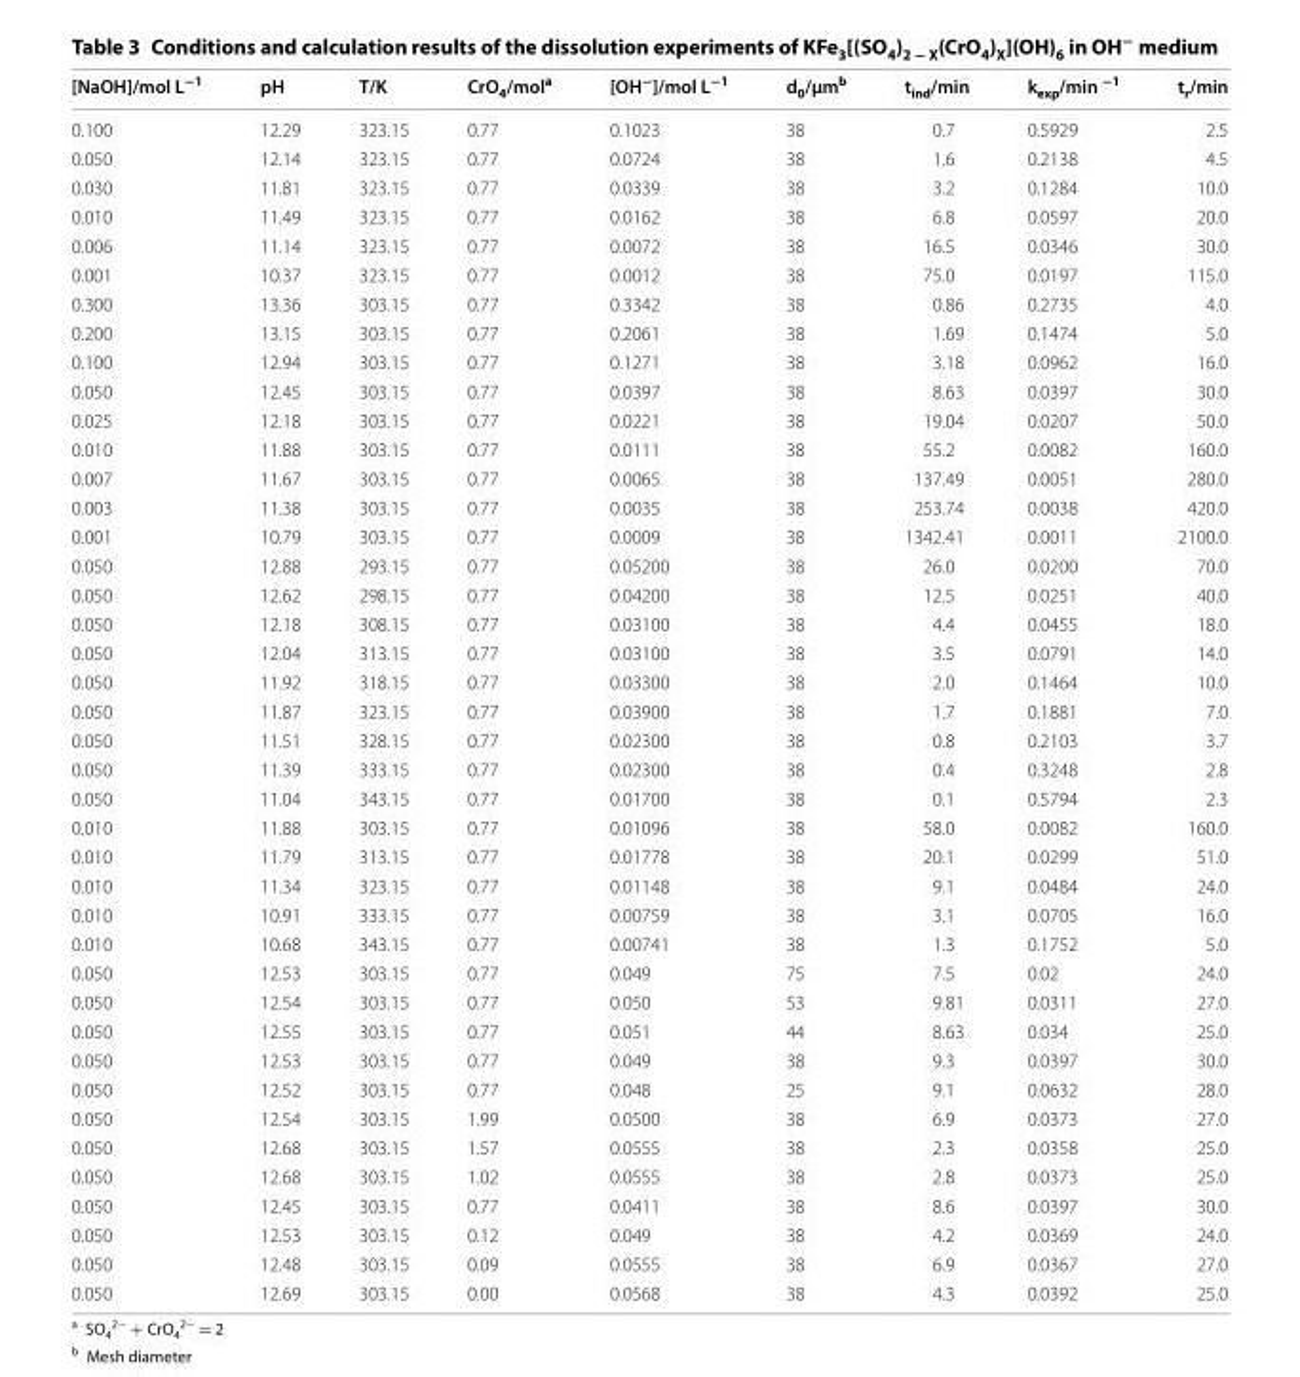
<table><thead><tr><td>[NaOH]/mol L<sup>−1</sup></td><td>pH</td><td>T/K</td><td>CrO<sub>4</sub>/mol<sup>a</sup></td><td>[OH<sup>−</sup>]/mol L<sup>−1</sup></td><td>d<sub>0</sub>/µm<sup>b</sup></td><td>t<sub>ind</sub>/min</td><td>k<sub>exp</sub>/min <sup>−1</sup></td><td>t<sub>r</sub>/min</td></tr></thead><tbody><tr><td>0.100</td><td>12.29</td><td>323.15</td><td>0.77</td><td>0.1023</td><td>38</td><td>0.7</td><td>0.5929</td><td>2.5</td></tr><tr><td>0.050</td><td>12.14</td><td>323.15</td><td>0.77</td><td>0.0724</td><td>38</td><td>1.6</td><td>0.2138</td><td>4.5</td></tr><tr><td>0.030</td><td>11.81</td><td>323.15</td><td>0.77</td><td>0.0339</td><td>38</td><td>3.2</td><td>0.1284</td><td>10.0</td></tr><tr><td>0.010</td><td>11.49</td><td>323.15</td><td>0.77</td><td>0.0162</td><td>38</td><td>6.8</td><td>0.0597</td><td>20.0</td></tr><tr><td>0.006</td><td>11.14</td><td>323.15</td><td>0.77</td><td>0.0072</td><td>38</td><td>16.5</td><td>0.0346</td><td>30.0</td></tr><tr><td>0.001</td><td>10.37</td><td>323.15</td><td>0.77</td><td>0.0012</td><td>38</td><td>75.0</td><td>0.0197</td><td>115.0</td></tr><tr><td>0.300</td><td>13.36</td><td>303.15</td><td>0.77</td><td>0.3342</td><td>38</td><td>0.86</td><td>0.2735</td><td>4.0</td></tr><tr><td>0.200</td><td>13.15</td><td>303.15</td><td>0.77</td><td>0.2061</td><td>38</td><td>1.69</td><td>0.1474</td><td>5.0</td></tr><tr><td>0.100</td><td>12.94</td><td>303.15</td><td>0.77</td><td>0.1271</td><td>38</td><td>3.18</td><td>0.0962</td><td>16.0</td></tr><tr><td>0.050</td><td>12.45</td><td>303.15</td><td>0.77</td><td>0.0397</td><td>38</td><td>8.63</td><td>0.0397</td><td>30.0</td></tr><tr><td>0.025</td><td>12.18</td><td>303.15</td><td>0.77</td><td>0.0221</td><td>38</td><td>19.04</td><td>0.0207</td><td>50.0</td></tr><tr><td>0.010</td><td>11.88</td><td>303.15</td><td>0.77</td><td>0.0111</td><td>38</td><td>55.2</td><td>0.0082</td><td>160.0</td></tr><tr><td>0.007</td><td>11.67</td><td>303.15</td><td>0.77</td><td>0.0065</td><td>38</td><td>137.49</td><td>0.0051</td><td>280.0</td></tr><tr><td>0.003</td><td>11.38</td><td>303.15</td><td>0.77</td><td>0.0035</td><td>38</td><td>253.74</td><td>0.0038</td><td>420.0</td></tr><tr><td>0.001</td><td>10.79</td><td>303.15</td><td>0.77</td><td>0.0009</td><td>38</td><td>1342.41</td><td>0.0011</td><td>2100.0</td></tr><tr><td>0.050</td><td>12.88</td><td>293.15</td><td>0.77</td><td>0.05200</td><td>38</td><td>26.0</td><td>0.0200</td><td>70.0</td></tr><tr><td>0.050</td><td>12.62</td><td>298.15</td><td>0.77</td><td>0.04200</td><td>38</td><td>12.5</td><td>0.0251</td><td>40.0</td></tr><tr><td>0.050</td><td>12.18</td><td>308.15</td><td>0.77</td><td>0.03100</td><td>38</td><td>4.4</td><td>0.0455</td><td>18.0</td></tr><tr><td>0.050</td><td>12.04</td><td>313.15</td><td>0.77</td><td>0.03100</td><td>38</td><td>3.5</td><td>0.0791</td><td>14.0</td></tr><tr><td>0.050</td><td>11.92</td><td>318.15</td><td>0.77</td><td>0.03300</td><td>38</td><td>2.0</td><td>0.1464</td><td>10.0</td></tr><tr><td>0.050</td><td>11.87</td><td>323.15</td><td>0.77</td><td>0.03900</td><td>38</td><td>1.7</td><td>0.1881</td><td>7.0</td></tr><tr><td>0.050</td><td>11.51</td><td>328.15</td><td>0.77</td><td>0.02300</td><td>38</td><td>0.8</td><td>0.2103</td><td>3.7</td></tr><tr><td>0.050</td><td>11.39</td><td>333.15</td><td>0.77</td><td>0.02300</td><td>38</td><td>0.4</td><td>0.3248</td><td>2.8</td></tr><tr><td>0.050</td><td>11.04</td><td>343.15</td><td>0.77</td><td>0.01700</td><td>38</td><td>0.1</td><td>0.5794</td><td>2.3</td></tr><tr><td>0.010</td><td>11.88</td><td>303.15</td><td>0.77</td><td>0.01096</td><td>38</td><td>58.0</td><td>0.0082</td><td>160.0</td></tr><tr><td>0.010</td><td>11.79</td><td>313.15</td><td>0.77</td><td>0.01778</td><td>38</td><td>20.1</td><td>0.0299</td><td>51.0</td></tr><tr><td>0.010</td><td>11.34</td><td>323.15</td><td>0.77</td><td>0.01148</td><td>38</td><td>9.1</td><td>0.0484</td><td>24.0</td></tr><tr><td>0.010</td><td>10.91</td><td>333.15</td><td>0.77</td><td>0.00759</td><td>38</td><td>3.1</td><td>0.0705</td><td>16.0</td></tr><tr><td>0.010</td><td>10.68</td><td>343.15</td><td>0.77</td><td>0.00741</td><td>38</td><td>1.3</td><td>0.1752</td><td>5.0</td></tr><tr><td>0.050</td><td>12.53</td><td>303.15</td><td>0.77</td><td>0.049</td><td>75</td><td>7.5</td><td>0.02</td><td>24.0</td></tr><tr><td>0.050</td><td>12.54</td><td>303.15</td><td>0.77</td><td>0.050</td><td>53</td><td>9.81</td><td>0.0311</td><td>27.0</td></tr><tr><td>0.050</td><td>12.55</td><td>303.15</td><td>0.77</td><td>0.051</td><td>44</td><td>8.63</td><td>0.034</td><td>25.0</td></tr><tr><td>0.050</td><td>12.53</td><td>303.15</td><td>0.77</td><td>0.049</td><td>38</td><td>9.3</td><td>0.0397</td><td>30.0</td></tr><tr><td>0.050</td><td>12.52</td><td>303.15</td><td>0.77</td><td>0.048</td><td>25</td><td>9.1</td><td>0.0632</td><td>28.0</td></tr><tr><td>0.050</td><td>12.54</td><td>303.15</td><td>1.99</td><td>0.0500</td><td>38</td><td>6.9</td><td>0.0373</td><td>27.0</td></tr><tr><td>0.050</td><td>12.68</td><td>303.15</td><td>1.57</td><td>0.0555</td><td>38</td><td>2.3</td><td>0.0358</td><td>25.0</td></tr><tr><td>0.050</td><td>12.68</td><td>303.15</td><td>1.02</td><td>0.0555</td><td>38</td><td>2.8</td><td>0.0373</td><td>25.0</td></tr><tr><td>0.050</td><td>12.45</td><td>303.15</td><td>0.77</td><td>0.0411</td><td>38</td><td>8.6</td><td>0.0397</td><td>30.0</td></tr><tr><td>0.050</td><td>12.53</td><td>303.15</td><td>0.12</td><td>0.049</td><td>38</td><td>4.2</td><td>0.0369</td><td>24.0</td></tr><tr><td>0.050</td><td>12.48</td><td>303.15</td><td>0.09</td><td>0.0555</td><td>38</td><td>6.9</td><td>0.0367</td><td>27.0</td></tr><tr><td>0.050</td><td>12.69</td><td>303.15</td><td>0.00</td><td>0.0568</td><td>38</td><td>4.3</td><td>0.0392</td><td>25.0</td></tr></tbody></table>